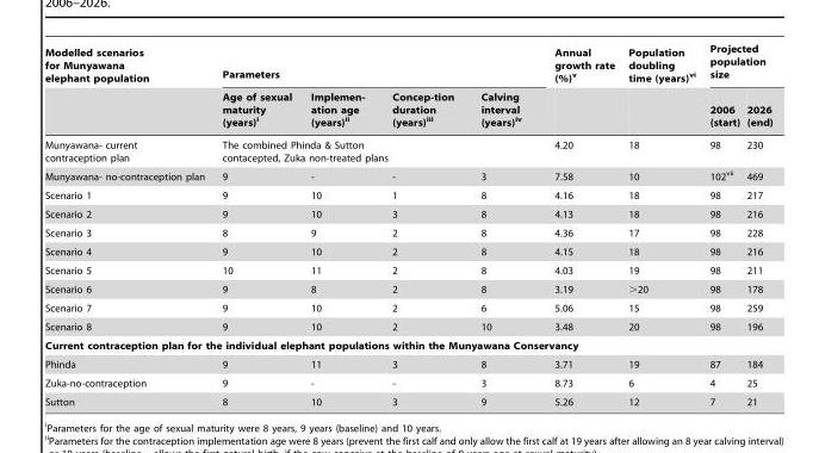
<table><thead><tr><td rowspan="2">Modelled scenarios for Munyawana elephant population</td><td colspan="4">Parameters</td><td rowspan="2">Annual growth rate (%)<sup>v</sup></td><td rowspan="2">Population doubling time (years)<sup>vi</sup></td><td colspan="2">Projected population size</td></tr><tr><td>Age of sexual maturity (years)<sup>i</sup></td><td>Implemen- ation age (years)<sup>ii</sup></td><td>Concep-tion duration (years)iii</td><td>Calving interval (years)<sup>iv</sup></td><td>2006 (start)</td><td>2026 (end)</td></tr></thead><tbody><tr><td>Munyawana- current contraception plan</td><td colspan="4">The combined Phinda &amp; Sutton contacepted, Zuka non-treated plans</td><td>4.20</td><td>18</td><td>98</td><td>230</td></tr><tr><td>Munyawana- no-contraception plan</td><td>9</td><td>-</td><td>-</td><td>3</td><td>7.58</td><td>10</td><td>102vii</td><td>469</td></tr><tr><td>Scenario 1</td><td>9</td><td>10</td><td>1</td><td>8</td><td>4.16</td><td>18</td><td>98</td><td>217</td></tr><tr><td>Scenario 2</td><td>9</td><td>10</td><td>3</td><td>8</td><td>4.13</td><td>18</td><td>98</td><td>216</td></tr><tr><td>Scenario 3</td><td>8</td><td>9</td><td>2</td><td>8</td><td>4.36</td><td>17</td><td>98</td><td>228</td></tr><tr><td>Scenario 4</td><td>9</td><td>10</td><td>2</td><td>8</td><td>4.15</td><td>18</td><td>98</td><td>216</td></tr><tr><td>Scenario 5</td><td>10</td><td>11</td><td>2</td><td>8</td><td>4.03</td><td>19</td><td>98</td><td>211</td></tr><tr><td>Scenario 6</td><td>9</td><td>8</td><td>2</td><td>8</td><td>3.19</td><td>&gt;20</td><td>98</td><td>178</td></tr><tr><td>Scenario 7</td><td>9</td><td>10</td><td>2</td><td>6</td><td>5.06</td><td>15</td><td>98</td><td>259</td></tr><tr><td>Scenario 8</td><td>9</td><td>10</td><td>2</td><td>10</td><td>3.48</td><td>20</td><td>98</td><td>196</td></tr><tr><td colspan="9">Current contraception plan for the individual elephant populations within the Munyawana Conservancy</td></tr><tr><td>Phinda</td><td>9</td><td>11</td><td>3</td><td>8</td><td>3.71</td><td>19</td><td>87</td><td>184</td></tr><tr><td>Zuka-no-contraception</td><td>9</td><td>-</td><td>-</td><td>3</td><td>8.73</td><td>6</td><td>4</td><td>25</td></tr><tr><td>Sutton</td><td>8</td><td>10</td><td>3</td><td>9</td><td>5.26</td><td>12</td><td>7</td><td>21</td></tr></tbody></table>